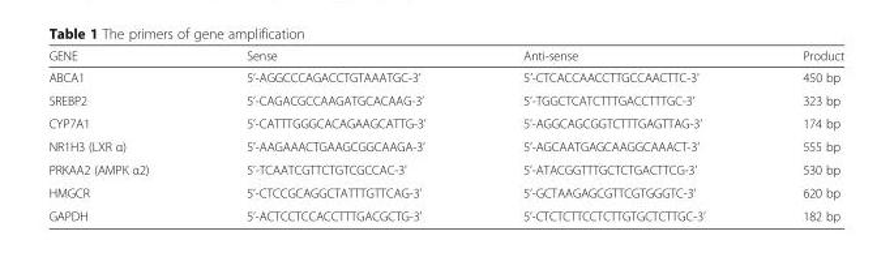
<table><thead><tr><td>GENE</td><td>Sense</td><td>Anti-sense</td><td>Product</td></tr></thead><tbody><tr><td>ABCA1</td><td>5’-AGGCCCAGACCTGTAAATGC-3’</td><td>5’-CTCACCAACCTTGCCAACTTC-3’</td><td>450 bp</td></tr><tr><td>SREBP2</td><td>5’-CAGACGCCAAGATGCACAAG-3’</td><td>5’-TGGCTCATCTTTGACCTTTGC-3’</td><td>323 bp</td></tr><tr><td>CYP7A1</td><td>5’-CATTTGGGCACAGAAGCATTG-3’</td><td>5’-AGGCAGCGGTCTTTGAGTTAG-3’</td><td>174 bp</td></tr><tr><td>NR1H3 (LXR α)</td><td>5’-AAGAAACTGAAGCGGCAAGA-3’</td><td>5’-AGCAATGAGCAAGGCAAACT-3’</td><td>555 bp</td></tr><tr><td>PRKAA2 (AMPK α2)</td><td>5’-TCAATCGTTCTGTCGCCAC-3’</td><td>5’-ATACGGTTTGCTCTGACTTCG-3’</td><td>530 bp</td></tr><tr><td>HMGCR</td><td>5’-CTCCGCAGGCTATTTGTTCAG-3’</td><td>5’-GCTAAGAGCGTTCGTGGGTC-3’</td><td>620 bp</td></tr><tr><td>GAPDH</td><td>5’-ACTCCTCCACCTTTGACGCTG-3’</td><td>5’-CTCTCTTCCTCTTGTGCTCTTGC-3’</td><td>182 bp</td></tr></tbody></table>